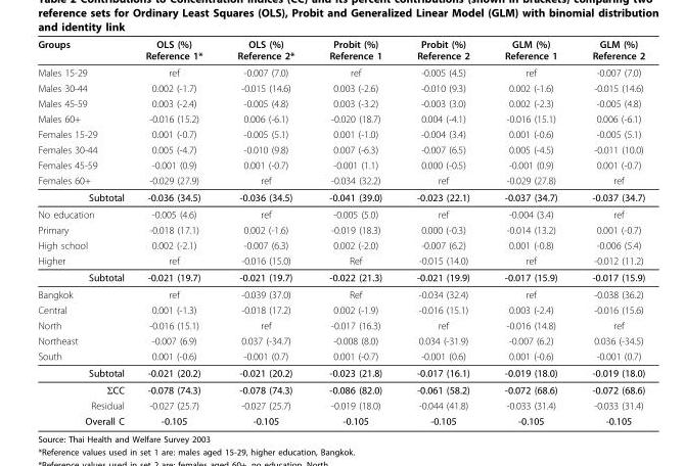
<table><thead><tr><td>Groups</td><td>OLS (%) Reference 1*</td><td>OLS (%) Reference 2*</td><td>Probit (%) Reference 1</td><td>Probit (%) Reference 2</td><td>GLM (%) Reference 1</td><td>GLM (%) Reference 2</td></tr></thead><tbody><tr><td>Males 15-29</td><td>ref</td><td>-0.007 (7.0)</td><td>ref</td><td>-0.005 (4.5)</td><td>ref</td><td>-0.007 (7.0)</td></tr><tr><td>Males 30-44</td><td>0.002 (-1.7)</td><td>-0.015 (14.6)</td><td>0.003 (-2.6)</td><td>-0.010 (9.3)</td><td>0.002 (-1.6)</td><td>-0.015 (14.6)</td></tr><tr><td>Males 45-59</td><td>0.003 (-2.4)</td><td>-0.005 (4.8)</td><td>0.003 (-3.2)</td><td>-0.003 (3.0)</td><td>0.002 (-2.3)</td><td>-0.005 (4.8)</td></tr><tr><td>Males 60+</td><td>-0.016 (15.2)</td><td>0.006 (-6.1)</td><td>-0.020 (18.7)</td><td>0.004 (-4.1)</td><td>-0.016 (15.1)</td><td>0.006 (-6.1)</td></tr><tr><td>Females 15-29</td><td>0.001 (-0.7)</td><td>-0.005 (5.1)</td><td>0.001 (-1.0)</td><td>-0.004 (3.4)</td><td>0.001 (-0.6)</td><td>-0.005 (5.1)</td></tr><tr><td>Females 30-44</td><td>0.005 (-4.7)</td><td>-0.010 (9.8)</td><td>0.007 (-6.3)</td><td>-0.007 (6.5)</td><td>0.005 (-4.5)</td><td>-0.011 (10.0)</td></tr><tr><td>Females 45-59</td><td>-0.001 (0.9)</td><td>0.001 (-0.7)</td><td>-0.001 (1.1)</td><td>0.000 (-0.5)</td><td>-0.001 (0.9)</td><td>0.001 (-0.7)</td></tr><tr><td>Females 60+</td><td>-0.029 (27.9)</td><td>ref</td><td>-0.034 (32.2)</td><td>ref</td><td>-0.029 (27.8)</td><td>ref</td></tr><tr><td>Subtotal</td><td>-0.036 (34.5)</td><td>-0.036 (34.5)</td><td>-0.041 (39.0)</td><td>-0.023 (22.1)</td><td>-0.037 (34.7)</td><td>-0.037 (34.7)</td></tr><tr><td>No education</td><td>-0.005 (4.6)</td><td>ref</td><td>-0.005 (5.0)</td><td>ref</td><td>-0.004 (3.4)</td><td>ref</td></tr><tr><td>Primary</td><td>-0.018 (17.1)</td><td>0.002 (-1.6)</td><td>-0.019 (18.3)</td><td>0.000 (-0.3)</td><td>-0.014 (13.2)</td><td>0.001 (-0.7)</td></tr><tr><td>High school</td><td>0.002 (-2.1)</td><td>-0.007 (6.3)</td><td>0.002 (-2.0)</td><td>-0.007 (6.2)</td><td>0.001 (-0.8)</td><td>-0.006 (5.4)</td></tr><tr><td>Higher</td><td>ref</td><td>-0.016 (15.0)</td><td>Ref</td><td>-0.015 (14.0)</td><td>ref</td><td>-0.012 (11.2)</td></tr><tr><td>Subtotal</td><td>-0.021 (19.7)</td><td>-0.021 (19.7)</td><td>-0.022 (21.3)</td><td>-0.021 (19.9)</td><td>-0.017 (15.9)</td><td>-0.017 (15.9)</td></tr><tr><td>Bangkok</td><td>ref</td><td>-0.039 (37.0)</td><td>Ref</td><td>-0.034 (32.4)</td><td>ref</td><td>-0.038 (36.2)</td></tr><tr><td>Central</td><td>0.001 (-1.3)</td><td>-0.018 (17.2)</td><td>0.002 (-1.9)</td><td>-0.016 (15.1)</td><td>0.003 (-2.4)</td><td>-0.016 (15.6)</td></tr><tr><td>North</td><td>-0.016 (15.1)</td><td>ref</td><td>-0.017 (16.3)</td><td>ref</td><td>-0.016 (14.8)</td><td>ref</td></tr><tr><td>Northeast</td><td>-0.007 (6.9)</td><td>0.037 (-34.7)</td><td>-0.008 (8.0)</td><td>0.034 (-31.9)</td><td>-0.007 (6.2)</td><td>0.036 (-34.5)</td></tr><tr><td>South</td><td>0.001 (-0.6)</td><td>-0.001 (0.7)</td><td>0.001 (-0.7)</td><td>-0.001 (0.6)</td><td>0.001 (-0.6)</td><td>-0.001 (0.7)</td></tr><tr><td>Subtotal</td><td>-0.021 (20.2)</td><td>-0.021 (20.2)</td><td>-0.023 (21.8)</td><td>-0.017 (16.1)</td><td>-0.019 (18.0)</td><td>-0.019 (18.0)</td></tr><tr><td>ΣCC</td><td>-0.078 (74.3)</td><td>-0.078 (74.3)</td><td>-0.086 (82.0)</td><td>-0.061 (58.2)</td><td>-0.072 (68.6)</td><td>-0.072 (68.6)</td></tr><tr><td>Residual</td><td>-0.027 (25.7)</td><td>-0.027 (25.7)</td><td>-0.019 (18.0)</td><td>-0.044 (41.8)</td><td>-0.033 (31.4)</td><td>-0.033 (31.4)</td></tr><tr><td>Overall C</td><td>-0.105</td><td>-0.105</td><td>-0.105</td><td>-0.105</td><td>-0.105</td><td>-0.105</td></tr></tbody></table>